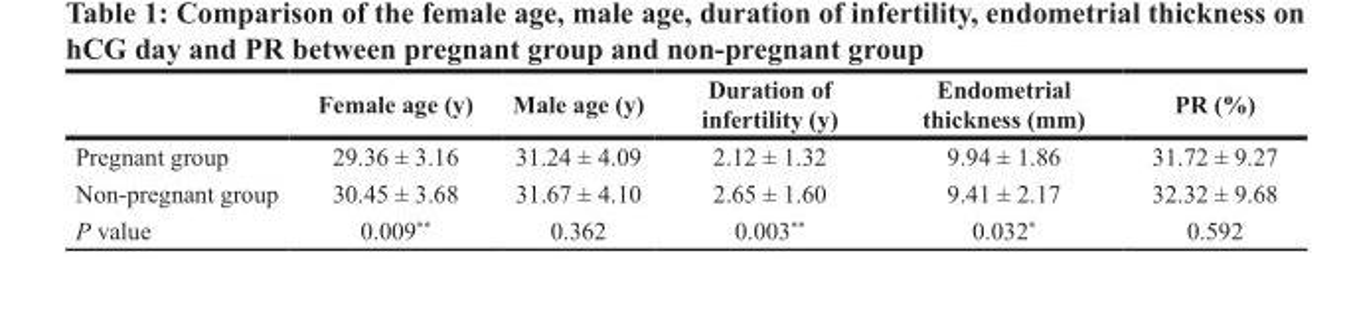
<table><thead><tr><td></td><td>Female age (y)</td><td>Male age (y)</td><td>Duration of infertility (y)</td><td>Endometrial thickness (mm)</td><td>PR (%)</td></tr></thead><tbody><tr><td>Pregnant group</td><td>29.36 ± 3.16</td><td>31.24 ± 4.09</td><td>2.12 ± 1.32</td><td>9.94 ± 1.86</td><td>31.72 ± 9.27</td></tr><tr><td>Non-pregnant group</td><td>30.45 ± 3.68</td><td>31.67 ± 4.10</td><td>2.65 ± 1.60</td><td>9.41 ± 2.17</td><td>32.32 ± 9.68</td></tr><tr><td>P value</td><td>0.009**</td><td>0.362</td><td>0.003**</td><td>0.032*</td><td>0.592</td></tr></tbody></table>